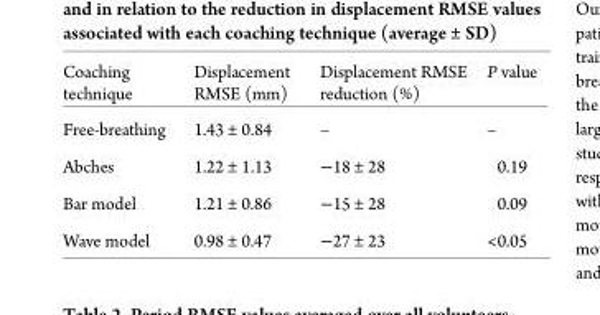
<table><thead><tr><td>Coaching technique</td><td>Displacement RMSE (mm)</td><td>Displacement RMSE reduction (%)</td><td>P value</td></tr></thead><tbody><tr><td>Free-breathing</td><td>1.43 ± 0.84</td><td>–</td><td>–</td></tr><tr><td>Abches</td><td>1.22 ± 1.13</td><td>−18 ± 28</td><td>0.19</td></tr><tr><td>Bar model</td><td>1.21 ± 0.86</td><td>−15 ± 28</td><td>0.09</td></tr><tr><td>Wave model</td><td>0.98 ± 0.47</td><td>−27 ± 23</td><td>&lt;0.05</td></tr></tbody></table>